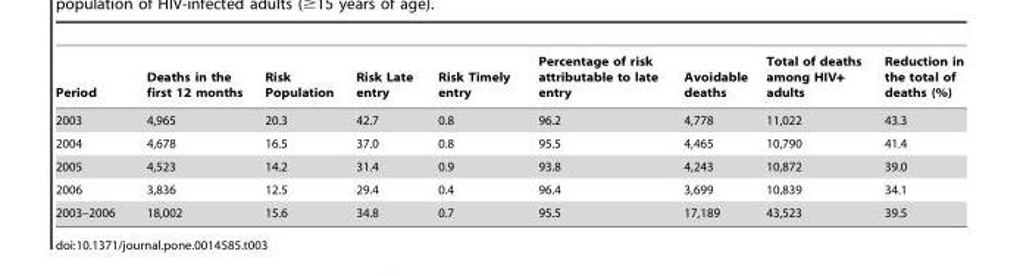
<table><thead><tr><td>Period</td><td>Deaths in the first 12 months</td><td>Risk Population</td><td>Risk Late entry</td><td>Risk Timely entry</td><td>Percentage of risk attributable to late entry</td><td>Avoidable deaths</td><td>Total of deaths among HIV+ adults</td><td>Reduction in the total of deaths (%)</td></tr></thead><tbody><tr><td>2003</td><td>4,965</td><td>20.3</td><td>42.7</td><td>0.8</td><td>96.2</td><td>4,778</td><td>11,022</td><td>43.3</td></tr><tr><td>2004</td><td>4,678</td><td>16.5</td><td>37.0</td><td>0.8</td><td>95.5</td><td>4,465</td><td>10,790</td><td>41.4</td></tr><tr><td>2005</td><td>4,523</td><td>14.2</td><td>31.4</td><td>0.9</td><td>93.8</td><td>4,243</td><td>10,872</td><td>39.0</td></tr><tr><td>2006</td><td>3,836</td><td>12.5</td><td>29.4</td><td>0.4</td><td>96.4</td><td>3,699</td><td>10,839</td><td>34.1</td></tr><tr><td>2003–2006</td><td>18,002</td><td>15.6</td><td>34.8</td><td>0.7</td><td>95.5</td><td>17,189</td><td>43,523</td><td>39.5</td></tr></tbody></table>